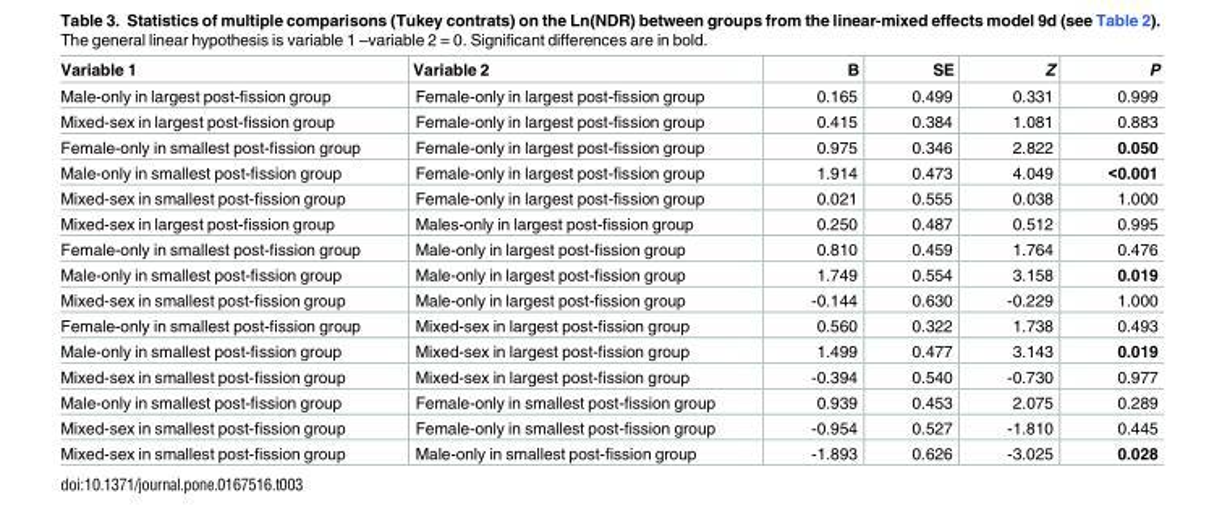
<table><thead><tr><td>Variable 1</td><td>Variable 2</td><td>Β</td><td>SE</td><td>Z</td><td>P</td></tr></thead><tbody><tr><td>Male-only in largest post-fission group</td><td>Female-only in largest post-fission group</td><td>0.165</td><td>0.499</td><td>0.331</td><td>0.999</td></tr><tr><td>Mixed-sex in largest post-fission group</td><td>Female-only in largest post-fission group</td><td>0.415</td><td>0.384</td><td>1.081</td><td>0.883</td></tr><tr><td>Female-only in smallest post-fission group</td><td>Female-only in largest post-fission group</td><td>0.975</td><td>0.346</td><td>2.822</td><td>0.050</td></tr><tr><td>Male-only in smallest post-fission group</td><td>Female-only in largest post-fission group</td><td>1.914</td><td>0.473</td><td>4.049</td><td>&lt;0.001</td></tr><tr><td>Mixed-sex in smallest post-fission group</td><td>Female-only in largest post-fission group</td><td>0.021</td><td>0.555</td><td>0.038</td><td>1.000</td></tr><tr><td>Mixed-sex in largest post-fission group</td><td>Males-only in largest post-fission group</td><td>0.250</td><td>0.487</td><td>0.512</td><td>0.995</td></tr><tr><td>Female-only in smallest post-fission group</td><td>Male-only in largest post-fission group</td><td>0.810</td><td>0.459</td><td>1.764</td><td>0.476</td></tr><tr><td>Male-only in smallest post-fission group</td><td>Male-only in largest post-fission group</td><td>1.749</td><td>0.554</td><td>3.158</td><td>0.019</td></tr><tr><td>Mixed-sex in smallest post-fission group</td><td>Male-only in largest post-fission group</td><td>-0.144</td><td>0.630</td><td>-0.229</td><td>1.000</td></tr><tr><td>Female-only in smallest post-fission group</td><td>Mixed-sex in largest post-fission group</td><td>0.560</td><td>0.322</td><td>1.738</td><td>0.493</td></tr><tr><td>Male-only in smallest post-fission group</td><td>Mixed-sex in largest post-fission group</td><td>1.499</td><td>0.477</td><td>3.143</td><td>0.019</td></tr><tr><td>Mixed-sex in smallest post-fission group</td><td>Mixed-sex in largest post-fission group</td><td>-0.394</td><td>0.540</td><td>-0.730</td><td>0.977</td></tr><tr><td>Male-only in smallest post-fission group</td><td>Female-only in smallest post-fission group</td><td>0.939</td><td>0.453</td><td>2.075</td><td>0.289</td></tr><tr><td>Mixed-sex in smallest post-fission group</td><td>Female-only in smallest post-fission group</td><td>-0.954</td><td>0.527</td><td>-1.810</td><td>0.445</td></tr><tr><td>Mixed-sex in smallest post-fission group</td><td>Male-only in smallest post-fission group</td><td>-1.893</td><td>0.626</td><td>-3.025</td><td>0.028</td></tr></tbody></table>